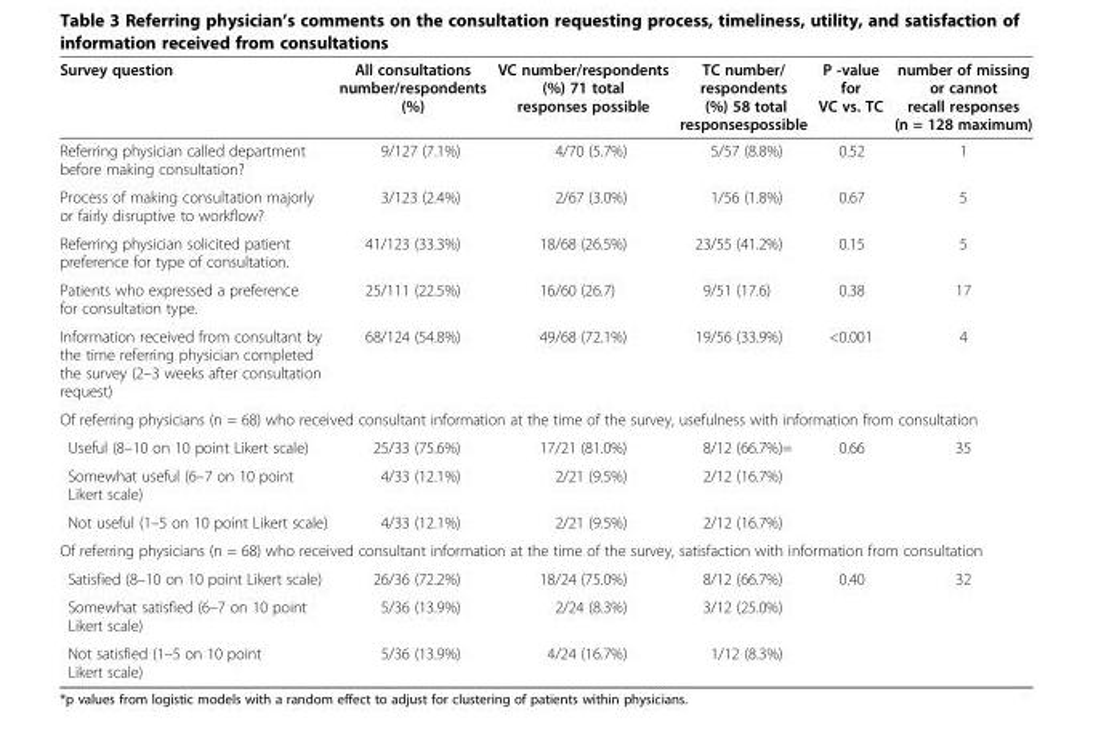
<table><thead><tr><td>Survey question</td><td>All consultations number/respondents (%)</td><td>VC number/respondents (%) 71 total responses possible</td><td>TC number/ respondents (%) 58 total responsespossible</td><td>P -value for VC vs. TC</td><td>number of missing or cannot recall responses (n = 128 maximum)</td></tr></thead><tbody><tr><td>Referring physician called department before making consultation?</td><td>9/127 (7.1%)</td><td>4/70 (5.7%)</td><td>5/57 (8.8%)</td><td>0.52</td><td>1</td></tr><tr><td>Process of making consultation majorly or fairly disruptive to workflow?</td><td>3/123 (2.4%)</td><td>2/67 (3.0%)</td><td>1/56 (1.8%)</td><td>0.67</td><td>5</td></tr><tr><td>Referring physician solicited patient preference for type of consultation.</td><td>41/123 (33.3%)</td><td>18/68 (26.5%)</td><td>23/55 (41.2%)</td><td>0.15</td><td>5</td></tr><tr><td>Patients who expressed a preference for consultation type.</td><td>25/111 (22.5%)</td><td>16/60 (26.7)</td><td>9/51 (17.6)</td><td>0.38</td><td>17</td></tr><tr><td>Information received from consultant by the time referring physician completed the survey (2–3 weeks after consultation request)</td><td>68/124 (54.8%)</td><td>49/68 (72.1%)</td><td>19/56 (33.9%)</td><td>&lt;0.001</td><td>4</td></tr><tr><td colspan="6">Of referring physicians (n = 68) who received consultant information at the time of the survey, usefulness with information from consultation</td></tr><tr><td>Useful (8–10 on 10 point Likert scale)</td><td>25/33 (75.6%)</td><td>17/21 (81.0%)</td><td>8/12 (66.7%)=</td><td>0.66</td><td>35</td></tr><tr><td>Somewhat useful (6–7 on 10 point Likert scale)</td><td>4/33 (12.1%)</td><td>2/21 (9.5%)</td><td>2/12 (16.7%)</td><td></td><td></td></tr><tr><td>Not useful (1–5 on 10 point Likert scale)</td><td>4/33 (12.1%)</td><td>2/21 (9.5%)</td><td>2/12 (16.7%)</td><td></td><td></td></tr><tr><td colspan="6">Of referring physicians (n = 68) who received consultant information at the time of the survey, satisfaction with information from consultation</td></tr><tr><td>Satisfied (8–10 on 10 point Likert scale)</td><td>26/36 (72.2%)</td><td>18/24 (75.0%)</td><td>8/12 (66.7%)</td><td>0.40</td><td>32</td></tr><tr><td>Somewhat satisfied (6–7 on 10 point Likert scale)</td><td>5/36 (13.9%)</td><td>2/24 (8.3%)</td><td>3/12 (25.0%)</td><td></td><td></td></tr><tr><td>Not satisfied (1–5 on 10 point Likert scale)</td><td>5/36 (13.9%)</td><td>4/24 (16.7%)</td><td>1/12 (8.3%)</td><td></td><td></td></tr></tbody></table>